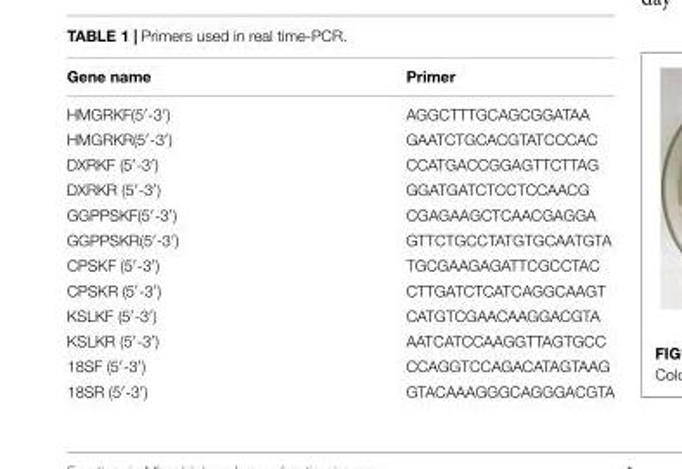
<table><thead><tr><td>Gene name</td><td>Primer</td></tr></thead><tbody><tr><td>HMGRKF(5′-3′)</td><td>AGGCTTTGCAGCGGATAA</td></tr><tr><td>HMGRKR(5′-3′)</td><td>GAATCTGCACGTATCCCAC</td></tr><tr><td>DXRKF (5′-3′)</td><td>CCATGACCGGAGTTCTTAG</td></tr><tr><td>DXRKR (5′-3′)</td><td>GGATGATCTCCTCCAACG</td></tr><tr><td>GGPPSKF(5′-3′)</td><td>CGAGAAGCTCAACGAGGA</td></tr><tr><td>GGPPSKR(5′-3′)</td><td>GTTCTGCCTATGTGCAATGTA</td></tr><tr><td>CPSKF (5′-3′)</td><td>TGCGAAGAGATTCGCCTAC</td></tr><tr><td>CPSKR (5′-3′)</td><td>CTTGATCTCATCAGGCAAGT</td></tr><tr><td>KSLKF (5′-3′)</td><td>CATGTCGAACAAGGACGTA</td></tr><tr><td>KSLKR (5′-3′)</td><td>AATCATCCAAGGTTAGTGCC</td></tr><tr><td>18SF (5′-3′)</td><td>CCAGGTCCAGACATAGTAAG</td></tr><tr><td>18SR (5′-3′)</td><td>GTACAAAGGGCAGGGACGTA</td></tr></tbody></table>